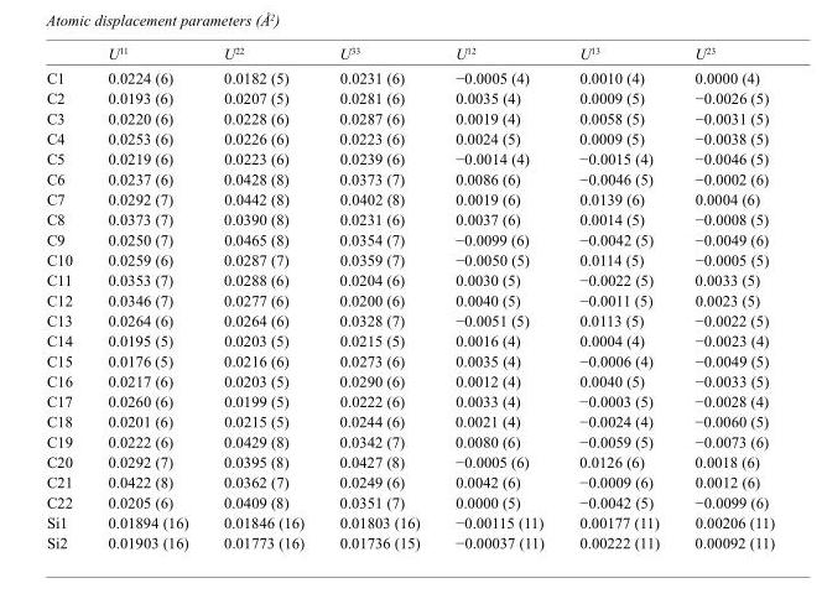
<table><thead><tr><td></td><td>U<sup>11</sup></td><td>U<sup>22</sup></td><td>U<sup>33</sup></td><td>U<sup>12</sup></td><td>U<sup>13</sup></td><td>U<sup>23</sup></td></tr></thead><tbody><tr><td>C1</td><td>0.0224 (6)</td><td>0.0182 (5)</td><td>0.0231 (6)</td><td>−0.0005 (4)</td><td>0.0010 (4)</td><td>0.0000 (4)</td></tr><tr><td>C2</td><td>0.0193 (6)</td><td>0.0207 (5)</td><td>0.0281 (6)</td><td>0.0035 (4)</td><td>0.0009 (5)</td><td>−0.0026 (5)</td></tr><tr><td>C3</td><td>0.0220 (6)</td><td>0.0228 (6)</td><td>0.0287 (6)</td><td>0.0019 (4)</td><td>0.0058 (5)</td><td>−0.0031 (5)</td></tr><tr><td>C4</td><td>0.0253 (6)</td><td>0.0226 (6)</td><td>0.0223 (6)</td><td>0.0024 (5)</td><td>0.0009 (5)</td><td>−0.0038 (5)</td></tr><tr><td>C5</td><td>0.0219 (6)</td><td>0.0223 (6)</td><td>0.0239 (6)</td><td>−0.0014 (4)</td><td>−0.0015 (4)</td><td>−0.0046 (5)</td></tr><tr><td>C6</td><td>0.0237 (6)</td><td>0.0428 (8)</td><td>0.0373 (7)</td><td>0.0086 (6)</td><td>−0.0046 (5)</td><td>−0.0002 (6)</td></tr><tr><td>C7</td><td>0.0292 (7)</td><td>0.0442 (8)</td><td>0.0402 (8)</td><td>0.0019 (6)</td><td>0.0139 (6)</td><td>0.0004 (6)</td></tr><tr><td>C8</td><td>0.0373 (7)</td><td>0.0390 (8)</td><td>0.0231 (6)</td><td>0.0037 (6)</td><td>0.0014 (5)</td><td>−0.0008 (5)</td></tr><tr><td>C9</td><td>0.0250 (7)</td><td>0.0465 (8)</td><td>0.0354 (7)</td><td>−0.0099 (6)</td><td>−0.0042 (5)</td><td>−0.0049 (6)</td></tr><tr><td>C10</td><td>0.0259 (6)</td><td>0.0287 (7)</td><td>0.0359 (7)</td><td>−0.0050 (5)</td><td>0.0114 (5)</td><td>−0.0005 (5)</td></tr><tr><td>C11</td><td>0.0353 (7)</td><td>0.0288 (6)</td><td>0.0204 (6)</td><td>0.0030 (5)</td><td>−0.0022 (5)</td><td>0.0033 (5)</td></tr><tr><td>C12</td><td>0.0346 (7)</td><td>0.0277 (6)</td><td>0.0200 (6)</td><td>0.0040 (5)</td><td>−0.0011 (5)</td><td>0.0023 (5)</td></tr><tr><td>C13</td><td>0.0264 (6)</td><td>0.0264 (6)</td><td>0.0328 (7)</td><td>−0.0051 (5)</td><td>0.0113 (5)</td><td>−0.0022 (5)</td></tr><tr><td>C14</td><td>0.0195 (5)</td><td>0.0203 (5)</td><td>0.0215 (5)</td><td>0.0016 (4)</td><td>0.0004 (4)</td><td>−0.0023 (4)</td></tr><tr><td>C15</td><td>0.0176 (5)</td><td>0.0216 (6)</td><td>0.0273 (6)</td><td>0.0035 (4)</td><td>−0.0006 (4)</td><td>−0.0049 (5)</td></tr><tr><td>C16</td><td>0.0217 (6)</td><td>0.0203 (5)</td><td>0.0290 (6)</td><td>0.0012 (4)</td><td>0.0040 (5)</td><td>−0.0033 (5)</td></tr><tr><td>C17</td><td>0.0260 (6)</td><td>0.0199 (5)</td><td>0.0222 (6)</td><td>0.0033 (4)</td><td>−0.0003 (5)</td><td>−0.0028 (4)</td></tr><tr><td>C18</td><td>0.0201 (6)</td><td>0.0215 (5)</td><td>0.0244 (6)</td><td>0.0021 (4)</td><td>−0.0024 (4)</td><td>−0.0060 (5)</td></tr><tr><td>C19</td><td>0.0222 (6)</td><td>0.0429 (8)</td><td>0.0342 (7)</td><td>0.0080 (6)</td><td>−0.0059 (5)</td><td>−0.0073 (6)</td></tr><tr><td>C20</td><td>0.0292 (7)</td><td>0.0395 (8)</td><td>0.0427 (8)</td><td>−0.0005 (6)</td><td>0.0126 (6)</td><td>0.0018 (6)</td></tr><tr><td>C21</td><td>0.0422 (8)</td><td>0.0362 (7)</td><td>0.0249 (6)</td><td>0.0042 (6)</td><td>−0.0009 (6)</td><td>0.0012 (6)</td></tr><tr><td>C22</td><td>0.0205 (6)</td><td>0.0409 (8)</td><td>0.0351 (7)</td><td>0.0000 (5)</td><td>−0.0042 (5)</td><td>−0.0099 (6)</td></tr><tr><td>Si1</td><td>0.01894 (16)</td><td>0.01846 (16)</td><td>0.01803 (16)</td><td>−0.00115 (11)</td><td>0.00177 (11)</td><td>0.00206 (11)</td></tr><tr><td>Si2</td><td>0.01903 (16)</td><td>0.01773 (16)</td><td>0.01736 (15)</td><td>−0.00037 (11)</td><td>0.00222 (11)</td><td>0.00092 (11)</td></tr></tbody></table>